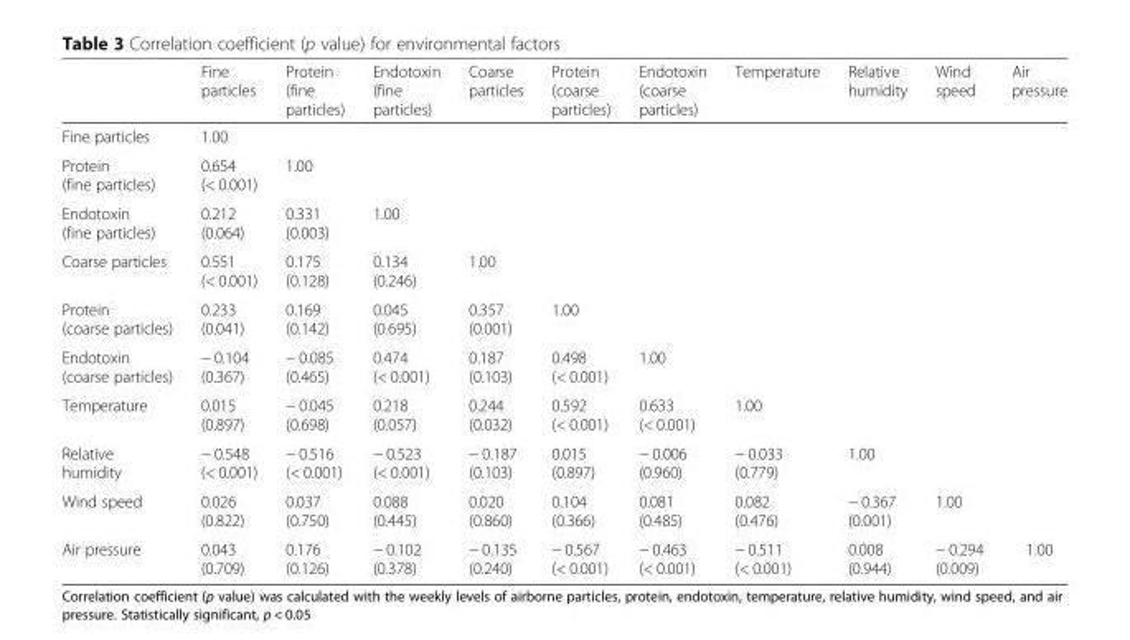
<table><thead><tr><td></td><td>Fine particles</td><td>Protein (fine particles)</td><td>Endotoxin (fine particles)</td><td>Coarse particles</td><td>Protein (coarse particles)</td><td>Endotoxin (coarse particles)</td><td>Temperature</td><td>Relative humidity</td><td>Wind speed</td><td>Air pressure</td></tr></thead><tbody><tr><td>Fine particles</td><td>1.00</td><td></td><td></td><td></td><td></td><td></td><td></td><td></td><td></td><td></td></tr><tr><td>Protein (fine particles)</td><td>0.654 (&lt; 0.001)</td><td>1.00</td><td></td><td></td><td></td><td></td><td></td><td></td><td></td><td></td></tr><tr><td>Endotoxin (fine particles)</td><td>0.212 (0.064)</td><td>0.331 (0.003)</td><td>1.00</td><td></td><td></td><td></td><td></td><td></td><td></td><td></td></tr><tr><td>Coarse particles</td><td>0.551 (&lt; 0.001)</td><td>0.175 (0.128)</td><td>0.134 (0.246)</td><td>1.00</td><td></td><td></td><td></td><td></td><td></td><td></td></tr><tr><td>Protein (coarse particles)</td><td>0.233 (0.041)</td><td>0.169 (0.142)</td><td>0.045 (0.695)</td><td>0.357 (0.001)</td><td>1.00</td><td></td><td></td><td></td><td></td><td></td></tr><tr><td>Endotoxin (coarse particles)</td><td>− 0.104 (0.367)</td><td>− 0.085 (0.465)</td><td>0.474 (&lt; 0.001)</td><td>0.187 (0.103)</td><td>0.498 (&lt; 0.001)</td><td>1.00</td><td></td><td></td><td></td><td></td></tr><tr><td>Temperature</td><td>0.015 (0.897)</td><td>− 0.045 (0.698)</td><td>0.218 (0.057)</td><td>0.244 (0.032)</td><td>0.592 (&lt; 0.001)</td><td>0.633 (&lt; 0.001)</td><td>1.00</td><td></td><td></td><td></td></tr><tr><td>Relative humidity</td><td>− 0.548 (&lt; 0.001)</td><td>− 0.516 (&lt; 0.001)</td><td>− 0.523 (&lt; 0.001)</td><td>− 0.187 (0.103)</td><td>0.015 (0.897)</td><td>− 0.006 (0.960)</td><td>− 0.033 (0.779)</td><td>1.00</td><td></td><td></td></tr><tr><td>Wind speed</td><td>0.026 (0.822)</td><td>0.037 (0.750)</td><td>0.088 (0.445)</td><td>0.020 (0.860)</td><td>0.104 (0.366)</td><td>0.081 (0.485)</td><td>0.082 (0.476)</td><td>− 0.367 (0.001)</td><td>1.00</td><td></td></tr><tr><td>Air pressure</td><td>0.043 (0.709)</td><td>0.176 (0.126)</td><td>− 0.102 (0.378)</td><td>− 0.135 (0.240)</td><td>− 0.567 (&lt; 0.001)</td><td>− 0.463 (&lt; 0.001)</td><td>− 0.511 (&lt; 0.001)</td><td>0.008 (0.944)</td><td>− 0.294 (0.009)</td><td>1.00</td></tr></tbody></table>